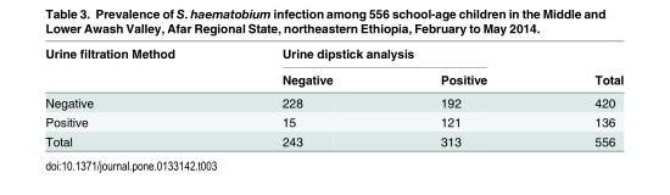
<table><thead><tr><td rowspan="2">Urine filtration Method</td><td colspan="2">Urine dipstick analysis</td><td rowspan="2">Total</td></tr><tr><td>Negative</td><td>Positive</td></tr></thead><tbody><tr><td>Negative</td><td>228</td><td>192</td><td>420</td></tr><tr><td>Positive</td><td>15</td><td>121</td><td>136</td></tr><tr><td>Total</td><td>243</td><td>313</td><td>556</td></tr></tbody></table>